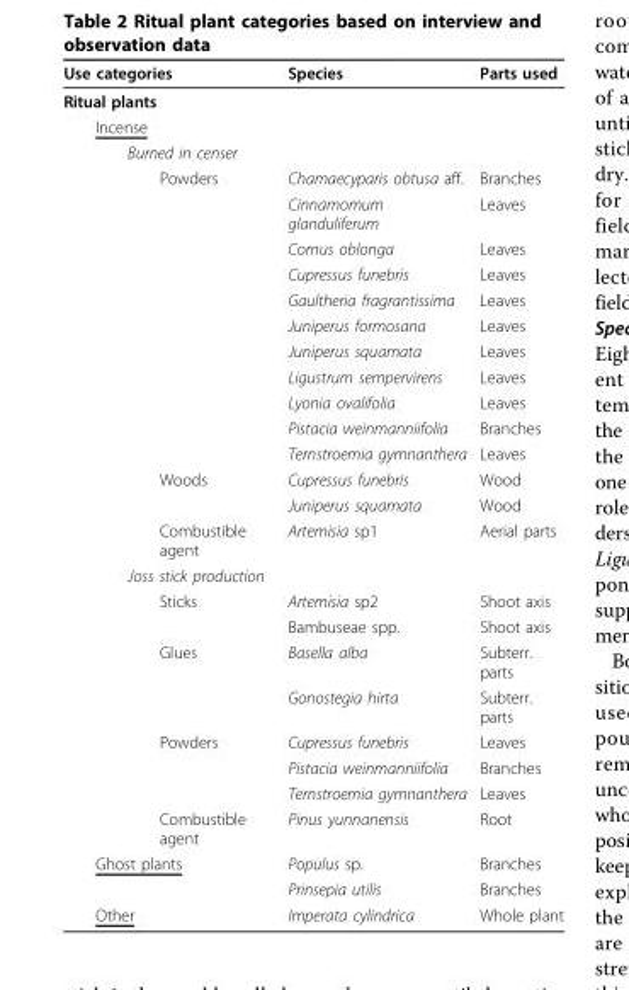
<table><thead><tr><td>Use categories</td><td>Species</td><td>Parts used</td></tr></thead><tbody><tr><td colspan="3">Ritual plants</td></tr><tr><td colspan="3">Incense</td></tr><tr><td colspan="3">Burned in censer</td></tr><tr><td rowspan="11">Powders</td><td>Chamaecyparis obtusa aff.</td><td>Branches</td></tr><tr><td>Cinnamomum glanduliferum</td><td>Leaves</td></tr><tr><td>Cornus oblonga</td><td>Leaves</td></tr><tr><td>Cupressus funebris</td><td>Leaves</td></tr><tr><td>Gaultheria fragrantissima</td><td>Leaves</td></tr><tr><td>Juniperus formosana</td><td>Leaves</td></tr><tr><td>Juniperus squamata</td><td>Leaves</td></tr><tr><td>Ligustrum sempervirens</td><td>Leaves</td></tr><tr><td>Lyonia ovalifolia</td><td>Leaves</td></tr><tr><td>Pistacia weinmanniifolia</td><td>Branches</td></tr><tr><td>Ternstroemia gymnanthera</td><td>Leaves</td></tr><tr><td rowspan="2">Woods</td><td>Cupressus funebris</td><td>Wood</td></tr><tr><td>Juniperus squamata</td><td>Wood</td></tr><tr><td>Combustible agent</td><td>Artemisia sp1</td><td>Aerial parts</td></tr><tr><td colspan="3">Joss stick production</td></tr><tr><td rowspan="2">Sticks</td><td>Artemisia sp2</td><td>Shoot axis</td></tr><tr><td>Bambuseae spp.</td><td>Shoot axis</td></tr><tr><td rowspan="2">Glues</td><td>Basella alba</td><td>Subterr. parts</td></tr><tr><td>Gonostegia hirta</td><td>Subterr. parts</td></tr><tr><td rowspan="3">Powders</td><td>Cupressus funebris</td><td>Leaves</td></tr><tr><td>Pistacia weinmanniifolia</td><td>Branches</td></tr><tr><td>Ternstroemia gymnanthera</td><td>Leaves</td></tr><tr><td>Combustible agent</td><td>Pinus yunnanensis</td><td>Root</td></tr><tr><td rowspan="2">Ghost plants</td><td>Populus sp.</td><td>Branches</td></tr><tr><td>Prinsepia utilis</td><td>Branches</td></tr><tr><td>Other</td><td>Imperata cylindrica</td><td>Whole plant</td></tr></tbody></table>